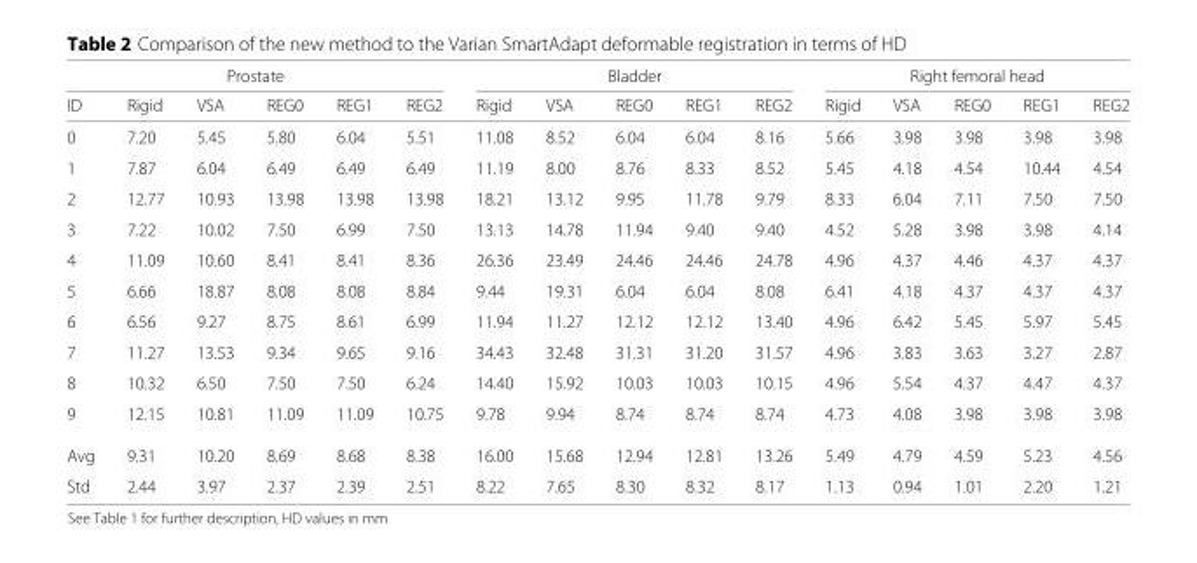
<table><thead><tr><td colspan="6">Prostate</td><td colspan="5">Bladder</td><td colspan="5">Right femoral head</td></tr><tr><td>ID</td><td>Rigid</td><td>VSA</td><td>REG0</td><td>REG1</td><td>REG2</td><td>Rigid</td><td>VSA</td><td>REG0</td><td>REG1</td><td>REG2</td><td>Rigid</td><td>VSA</td><td>REG0</td><td>REG1</td><td>REG2</td></tr></thead><tbody><tr><td>0</td><td>7.20</td><td>5.45</td><td>5.80</td><td>6.04</td><td>5.51</td><td>11.08</td><td>8.52</td><td>6.04</td><td>6.04</td><td>8.16</td><td>5.66</td><td>3.98</td><td>3.98</td><td>3.98</td><td>3.98</td></tr><tr><td>1</td><td>7.87</td><td>6.04</td><td>6.49</td><td>6.49</td><td>6.49</td><td>11.19</td><td>8.00</td><td>8.76</td><td>8.33</td><td>8.52</td><td>5.45</td><td>4.18</td><td>4.54</td><td>10.44</td><td>4.54</td></tr><tr><td>2</td><td>12.77</td><td>10.93</td><td>13.98</td><td>13.98</td><td>13.98</td><td>18.21</td><td>13.12</td><td>9.95</td><td>11.78</td><td>9.79</td><td>8.33</td><td>6.04</td><td>7.11</td><td>7.50</td><td>7.50</td></tr><tr><td>3</td><td>7.22</td><td>10.02</td><td>7.50</td><td>6.99</td><td>7.50</td><td>13.13</td><td>14.78</td><td>11.94</td><td>9.40</td><td>9.40</td><td>4.52</td><td>5.28</td><td>3.98</td><td>3.98</td><td>4.14</td></tr><tr><td>4</td><td>11.09</td><td>10.60</td><td>8.41</td><td>8.41</td><td>8.36</td><td>26.36</td><td>23.49</td><td>24.46</td><td>24.46</td><td>24.78</td><td>4.96</td><td>4.37</td><td>4.46</td><td>4.37</td><td>4.37</td></tr><tr><td>5</td><td>6.66</td><td>18.87</td><td>8.08</td><td>8.08</td><td>8.84</td><td>9.44</td><td>19.31</td><td>6.04</td><td>6.04</td><td>8.08</td><td>6.41</td><td>4.18</td><td>4.37</td><td>4.37</td><td>4.37</td></tr><tr><td>6</td><td>6.56</td><td>9.27</td><td>8.75</td><td>8.61</td><td>6.99</td><td>11.94</td><td>11.27</td><td>12.12</td><td>12.12</td><td>13.40</td><td>4.96</td><td>6.42</td><td>5.45</td><td>5.97</td><td>5.45</td></tr><tr><td>7</td><td>11.27</td><td>13.53</td><td>9.34</td><td>9.65</td><td>9.16</td><td>34.43</td><td>32.48</td><td>31.31</td><td>31.20</td><td>31.57</td><td>4.96</td><td>3.83</td><td>3.63</td><td>3.27</td><td>2.87</td></tr><tr><td>8</td><td>10.32</td><td>6.50</td><td>7.50</td><td>7.50</td><td>6.24</td><td>14.40</td><td>15.92</td><td>10.03</td><td>10.03</td><td>10.15</td><td>4.96</td><td>5.54</td><td>4.37</td><td>4.47</td><td>4.37</td></tr><tr><td>9</td><td>12.15</td><td>10.81</td><td>11.09</td><td>11.09</td><td>10.75</td><td>9.78</td><td>9.94</td><td>8.74</td><td>8.74</td><td>8.74</td><td>4.73</td><td>4.08</td><td>3.98</td><td>3.98</td><td>3.98</td></tr><tr><td>Avg</td><td>9.31</td><td>10.20</td><td>8.69</td><td>8.68</td><td>8.38</td><td>16.00</td><td>15.68</td><td>12.94</td><td>12.81</td><td>13.26</td><td>5.49</td><td>4.79</td><td>4.59</td><td>5.23</td><td>4.56</td></tr><tr><td>Std</td><td>2.44</td><td>3.97</td><td>2.37</td><td>2.39</td><td>2.51</td><td>8.22</td><td>7.65</td><td>8.30</td><td>8.32</td><td>8.17</td><td>1.13</td><td>0.94</td><td>1.01</td><td>2.20</td><td>1.21</td></tr></tbody></table>